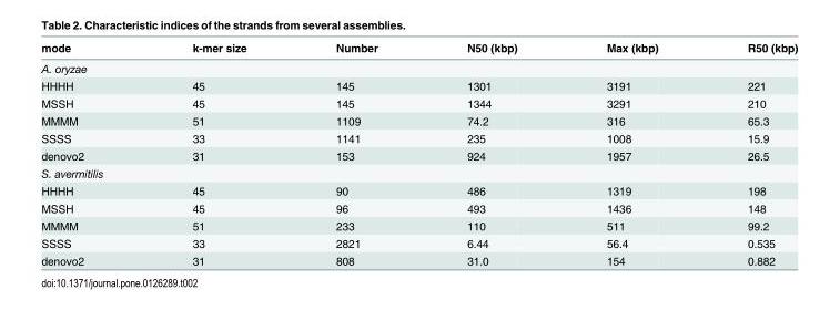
<table><thead><tr><td>mode</td><td>k-mer size</td><td>Number</td><td>N50 (kbp)</td><td>Max (kbp)</td><td>R50 (kbp)</td></tr></thead><tbody><tr><td colspan="6">A. oryzae</td></tr><tr><td>HHHH</td><td>45</td><td>145</td><td>1301</td><td>3191</td><td>221</td></tr><tr><td>MSSH</td><td>45</td><td>145</td><td>1344</td><td>3291</td><td>210</td></tr><tr><td>MMMM</td><td>51</td><td>1109</td><td>74.2</td><td>316</td><td>65.3</td></tr><tr><td>SSSS</td><td>33</td><td>1141</td><td>235</td><td>1008</td><td>15.9</td></tr><tr><td>denovo2</td><td>31</td><td>153</td><td>924</td><td>1957</td><td>26.5</td></tr><tr><td colspan="6">S. avermitilis</td></tr><tr><td>HHHH</td><td>45</td><td>90</td><td>486</td><td>1319</td><td>198</td></tr><tr><td>MSSH</td><td>45</td><td>96</td><td>493</td><td>1436</td><td>148</td></tr><tr><td>MMMM</td><td>51</td><td>233</td><td>110</td><td>511</td><td>99.2</td></tr><tr><td>SSSS</td><td>33</td><td>2821</td><td>6.44</td><td>56.4</td><td>0.535</td></tr><tr><td>denovo2</td><td>31</td><td>808</td><td>31.0</td><td>154</td><td>0.882</td></tr></tbody></table>